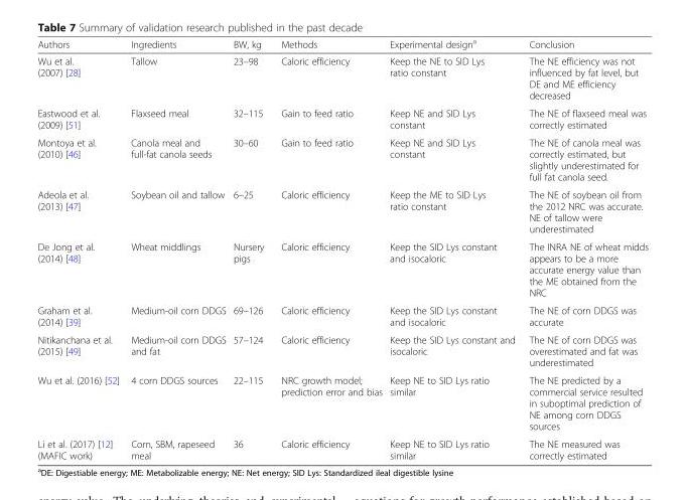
<table><thead><tr><td>Authors</td><td>Ingredients</td><td>BW, kg</td><td>Methods</td><td>Experimental design<sup>a</sup></td><td>Conclusion</td></tr></thead><tbody><tr><td>Wu et al. (2007) [28]</td><td>Tallow</td><td>23–98</td><td>Caloric efficiency</td><td>Keep the NE to SID Lys ratio constant</td><td>The NE efficiency was not influenced by fat level, but DE and ME efficiency decreased</td></tr><tr><td>Eastwood et al. (2009) [51]</td><td>Flaxseed meal</td><td>32–115</td><td>Gain to feed ratio</td><td>Keep NE and SID Lys constant</td><td>The NE of flaxseed meal was correctly estimated</td></tr><tr><td>Montoya et al. (2010) [46]</td><td>Canola meal and full-fat canola seeds</td><td>30–60</td><td>Gain to feed ratio</td><td>Keep NE and SID Lys constant</td><td>The NE of canola meal was correctly estimated, but slightly underestimated for full fat canola seed.</td></tr><tr><td>Adeola et al. (2013) [47]</td><td>Soybean oil and tallow</td><td>6–25</td><td>Caloric efficiency</td><td>Keep the ME to SID Lys ratio constant</td><td>The NE of soybean oil from the 2012 NRC was accurate. NE of tallow were underestimated</td></tr><tr><td>De Jong et al. (2014) [48]</td><td>Wheat middlings</td><td>Nursery pigs</td><td>Caloric efficiency</td><td>Keep the SID Lys constant and isocaloric</td><td>The INRA NE of wheat midds appears to be a more accurate energy value than the ME obtained from the NRC</td></tr><tr><td>Graham et al. (2014) [39]</td><td>Medium-oil corn DDGS</td><td>69–126</td><td>Caloric efficiency</td><td>Keep the SID Lys constant and isocaloric</td><td>The NE of corn DDGS was accurate</td></tr><tr><td>Nitikanchana et al. (2015) [49]</td><td>Medium-oil corn DDGS and fat</td><td>57–124</td><td>Caloric efficiency</td><td>Keep the SID Lys constant and isocaloric</td><td>The NE of corn DDGS was overestimated and fat was underestimated</td></tr><tr><td>Wu et al. (2016) [52]</td><td>4 corn DDGS sources</td><td>22–115</td><td>NRC growth model; prediction error and bias</td><td>Keep NE to SID Lys ratio similar</td><td>The NE predicted by a commercial service resulted in suboptimal prediction of NE among corn DDGS sources</td></tr><tr><td>Li et al. (2017) [12] (MAFIC work)</td><td>Corn, SBM, rapeseed meal</td><td>36</td><td>Caloric efficiency</td><td>Keep NE to SID Lys ratio similar</td><td>The NE measured was correctly estimated</td></tr></tbody></table>